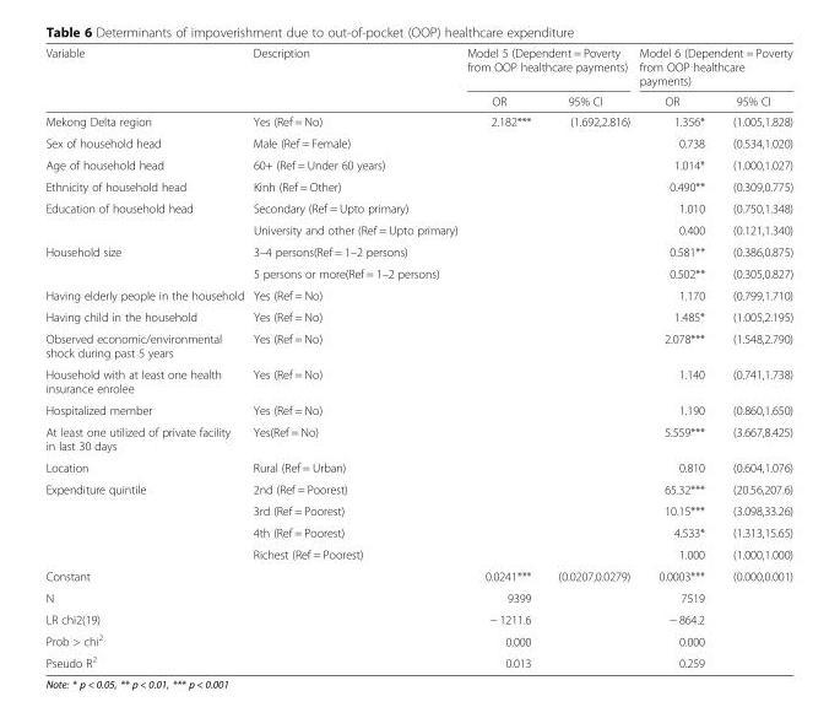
<table><thead><tr><td rowspan="2">Variable</td><td rowspan="2">Description</td><td colspan="2">Model 5 (Dependent = Poverty from OOP healthcare payments)</td><td colspan="2">Model 6 (Dependent = Poverty from OOP healthcare payments)</td></tr><tr><td>OR</td><td>95% CI</td><td>OR</td><td>95% CI</td></tr></thead><tbody><tr><td>Mekong Delta region</td><td>Yes (Ref = No)</td><td>2.182***</td><td>(1.692,2.816)</td><td>1.356*</td><td>(1.005,1.828)</td></tr><tr><td>Sex of household head</td><td>Male (Ref = Female)</td><td></td><td></td><td>0.738</td><td>(0.534,1.020)</td></tr><tr><td>Age of household head</td><td>60+ (Ref = Under 60 years)</td><td></td><td></td><td>1.014*</td><td>(1.000,1.027)</td></tr><tr><td>Ethnicity of household head</td><td>Kinh (Ref = Other)</td><td></td><td></td><td>0.490**</td><td>(0.309,0.775)</td></tr><tr><td rowspan="2">Education of household head</td><td>Secondary (Ref = Upto primary)</td><td></td><td></td><td>1.010</td><td>(0.750,1.348)</td></tr><tr><td>University and other (Ref = Upto primary)</td><td></td><td></td><td>0.400</td><td>(0.121,1.340)</td></tr><tr><td rowspan="2">Household size</td><td>3–4 persons(Ref = 1–2 persons)</td><td></td><td></td><td>0.581**</td><td>(0.386,0.875)</td></tr><tr><td>5 persons or more(Ref = 1–2 persons)</td><td></td><td></td><td>0.502**</td><td>(0.305,0.827)</td></tr><tr><td>Having elderly people in the household</td><td>Yes (Ref = No)</td><td></td><td></td><td>1.170</td><td>(0.799,1.710)</td></tr><tr><td>Having child in the household</td><td>Yes (Ref = No)</td><td></td><td></td><td>1.485*</td><td>(1.005,2.195)</td></tr><tr><td>Observed economic/environmental shock during past 5 years</td><td>Yes (Ref = No)</td><td></td><td></td><td>2.078***</td><td>(1.548,2.790)</td></tr><tr><td>Household with at least one health insurance enrolee</td><td>Yes (Ref = No)</td><td></td><td></td><td>1.140</td><td>(0.741,1.738)</td></tr><tr><td>Hospitalized member</td><td>Yes (Ref = No)</td><td></td><td></td><td>1.190</td><td>(0.860,1.650)</td></tr><tr><td>At least one utilized of private facility in last 30 days</td><td>Yes(Ref = No)</td><td></td><td></td><td>5.559***</td><td>(3.667,8.425)</td></tr><tr><td>Location</td><td>Rural (Ref = Urban)</td><td></td><td></td><td>0.810</td><td>(0.604,1.076)</td></tr><tr><td rowspan="4">Expenditure quintile</td><td>2nd (Ref = Poorest)</td><td></td><td></td><td>65.32***</td><td>(20.56,207.6)</td></tr><tr><td>3rd (Ref = Poorest)</td><td></td><td></td><td>10.15***</td><td>(3.098,33.26)</td></tr><tr><td>4th (Ref = Poorest)</td><td></td><td></td><td>4.533*</td><td>(1.313,15.65)</td></tr><tr><td>Richest (Ref = Poorest)</td><td></td><td></td><td>1.000</td><td>(1.000,1.000)</td></tr><tr><td>Constant</td><td></td><td>0.0241***</td><td>(0.0207,0.0279)</td><td>0.0003***</td><td>(0.000,0.001)</td></tr><tr><td>N</td><td></td><td>9399</td><td></td><td>7519</td><td></td></tr><tr><td>LR chi2(19)</td><td></td><td>− 1211.6</td><td></td><td>− 864.2</td><td></td></tr><tr><td>Prob &gt; chi<sup>2</sup></td><td></td><td>0.000</td><td></td><td>0.000</td><td></td></tr><tr><td>Pseudo R<sup>2</sup></td><td></td><td>0.013</td><td></td><td>0.259</td><td></td></tr></tbody></table>